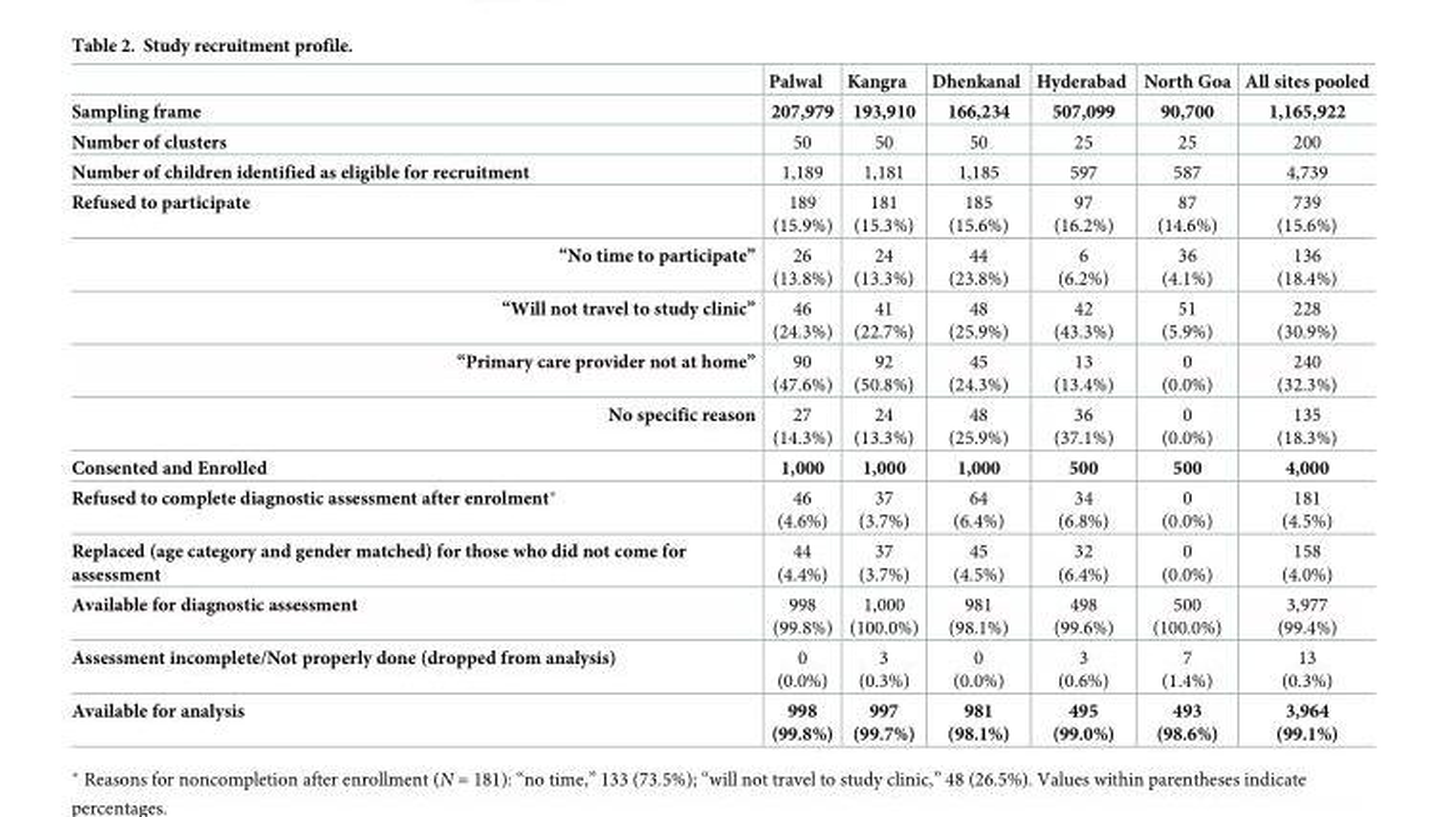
<table><thead><tr><td></td><td>Palwal</td><td>Kangra</td><td>Dhenkanal</td><td>Hyderabad</td><td>North Goa</td><td>All sites pooled</td></tr></thead><tbody><tr><td>Sampling frame</td><td>207,979</td><td>193,910</td><td>166,234</td><td>507,099</td><td>90,700</td><td>1,165,922</td></tr><tr><td>Number of clusters</td><td>50</td><td>50</td><td>50</td><td>25</td><td>25</td><td>200</td></tr><tr><td>Number of children identified as eligible for recruitment</td><td>1,189</td><td>1,181</td><td>1,185</td><td>597</td><td>587</td><td>4,739</td></tr><tr><td>Refused to participate</td><td>189 (15.9%)</td><td>181 (15.3%)</td><td>185 (15.6%)</td><td>97 (16.2%)</td><td>87 (14.6%)</td><td>739 (15.6%)</td></tr><tr><td>“No time to participate”</td><td>26 (13.8%)</td><td>24 (13.3%)</td><td>44 (23.8%)</td><td>6 (6.2%)</td><td>36 (4.1%)</td><td>136 (18.4%)</td></tr><tr><td>“Will not travel to study clinic”</td><td>46 (24.3%)</td><td>41 (22.7%)</td><td>48 (25.9%)</td><td>42 (43.3%)</td><td>51 (5.9%)</td><td>228 (30.9%)</td></tr><tr><td>“Primary care provider not at home”</td><td>90 (47.6%)</td><td>92 (50.8%)</td><td>45 (24.3%)</td><td>13 (13.4%)</td><td>0 (0.0%)</td><td>240 (32.3%)</td></tr><tr><td>No specific reason</td><td>27 (14.3%)</td><td>24 (13.3%)</td><td>48 (25.9%)</td><td>36 (37.1%)</td><td>0 (0.0%)</td><td>135 (18.3%)</td></tr><tr><td>Consented and Enrolled</td><td>1,000</td><td>1,000</td><td>1,000</td><td>500</td><td>500</td><td>4,000</td></tr><tr><td>Refused to complete diagnostic assessment after enrolment*</td><td>46 (4.6%)</td><td>37 (3.7%)</td><td>64 (6.4%)</td><td>34 (6.8%)</td><td>0 (0.0%)</td><td>181 (4.5%)</td></tr><tr><td>Replaced (age category and gender matched) for those who did not come for assessment</td><td>44 (4.4%)</td><td>37 (3.7%)</td><td>45 (4.5%)</td><td>32 (6.4%)</td><td>0 (0.0%)</td><td>158 (4.0%)</td></tr><tr><td>Available for diagnostic assessment</td><td>998 (99.8%)</td><td>1,000 (100.0%)</td><td>981 (98.1%)</td><td>498 (99.6%)</td><td>500 (100.0%)</td><td>3,977 (99.4%)</td></tr><tr><td>Assessment incomplete/Not properly done (dropped from analysis)</td><td>0 (0.0%)</td><td>3 (0.3%)</td><td>0 (0.0%)</td><td>3 (0.6%)</td><td>7 (1.4%)</td><td>13 (0.3%)</td></tr><tr><td>Available for analysis</td><td>998 (99.8%)</td><td>997 (99.7%)</td><td>981 (98.1%)</td><td>495 (99.0%)</td><td>493 (98.6%)</td><td>3,964 (99.1%)</td></tr></tbody></table>